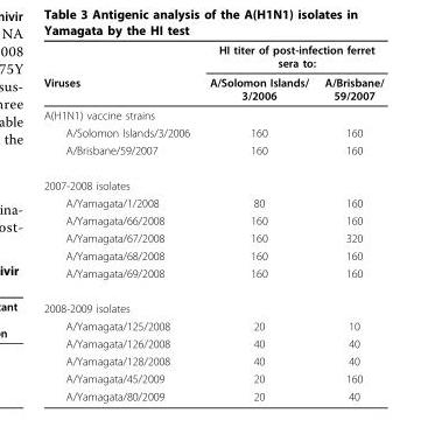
<table><thead><tr><td rowspan="2">Viruses</td><td colspan="2">HI titer of post-infection ferret sera to:</td></tr><tr><td>A/Solomon Islands/ 3/2006</td><td>A/Brisbane/ 59/2007</td></tr></thead><tbody><tr><td colspan="3">A(H1N1) vaccine strains</td></tr><tr><td>A/Solomon Islands/3/2006</td><td>160</td><td>160</td></tr><tr><td>A/Brisbane/59/2007</td><td>160</td><td>160</td></tr><tr><td colspan="3">2007-2008 isolates</td></tr><tr><td>A/Yamagata/1/2008</td><td>80</td><td>160</td></tr><tr><td>A/Yamagata/66/2008</td><td>160</td><td>160</td></tr><tr><td>A/Yamagata/67/2008</td><td>160</td><td>320</td></tr><tr><td>A/Yamagata/68/2008</td><td>160</td><td>160</td></tr><tr><td>A/Yamagata/69/2008</td><td>160</td><td>160</td></tr><tr><td colspan="3">2008-2009 isolates</td></tr><tr><td>A/Yamagata/125/2008</td><td>20</td><td>10</td></tr><tr><td>A/Yamagata/126/2008</td><td>40</td><td>40</td></tr><tr><td>A/Yamagata/128/2008</td><td>40</td><td>40</td></tr><tr><td>A/Yamagata/45/2009</td><td>20</td><td>160</td></tr><tr><td>A/Yamagata/80/2009</td><td>20</td><td>40</td></tr></tbody></table>